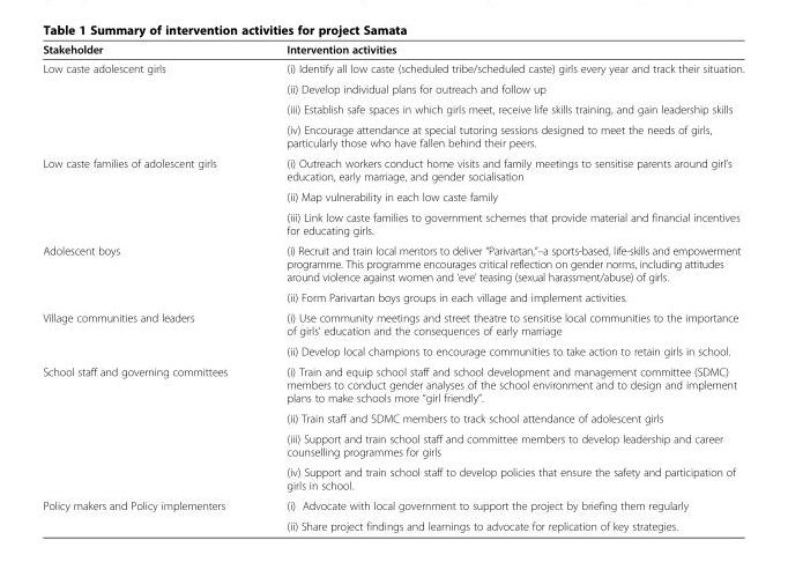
<table><thead><tr><td>Stakeholder</td><td>Intervention activities</td></tr></thead><tbody><tr><td rowspan="4">Low caste adolescent girls</td><td>(i) Identify all low caste (scheduled tribe/scheduled caste) girls every year and track their situation.</td></tr><tr><td>(ii) Develop individual plans for outreach and follow up</td></tr><tr><td>(iii) Establish safe spaces in which girls meet, receive life skills training, and gain leadership skills</td></tr><tr><td>(iv) Encourage attendance at special tutoring sessions designed to meet the needs of girls, particularly those who have fallen behind their peers.</td></tr><tr><td rowspan="3">Low caste families of adolescent girls</td><td>(i) Outreach workers conduct home visits and family meetings to sensitise parents around girl’s education, early marriage, and gender socialisation</td></tr><tr><td>(ii) Map vulnerability in each low caste family</td></tr><tr><td>(iii) Link low caste families to government schemes that provide material and financial incentives for educating girls.</td></tr><tr><td rowspan="2">Adolescent boys</td><td>(i) Recruit and train local mentors to deliver “Parivartan,”–a sports-based, life-skills and empowerment programme. This programme encourages critical reflection on gender norms, including attitudes around violence against women and ‘eve’ teasing (sexual harassment/abuse) of girls.</td></tr><tr><td>(ii) Form Parivartan boys groups in each village and implement activities.</td></tr><tr><td rowspan="2">Village communities and leaders</td><td>(i) Use community meetings and street theatre to sensitise local communities to the importance of girls’ education and the consequences of early marriage</td></tr><tr><td>(ii) Develop local champions to encourage communities to take action to retain girls in school.</td></tr><tr><td rowspan="4">School staff and governing committees</td><td>(i) Train and equip school staff and school development and management committee (SDMC) members to conduct gender analyses of the school environment and to design and implement plans to make schools more “girl friendly”.</td></tr><tr><td>(ii) Train staff and SDMC members to track school attendance of adolescent girls</td></tr><tr><td>(iii) Support and train school staff and committee members to develop leadership and career counselling programmes for girls</td></tr><tr><td>(iv) Support and train school staff to develop policies that ensure the safety and participation of girls in school.</td></tr><tr><td rowspan="2">Policy makers and Policy implementers</td><td>(i) Advocate with local government to support the project by briefing them regularly</td></tr><tr><td>(ii) Share project findings and learnings to advocate for replication of key strategies.</td></tr></tbody></table>